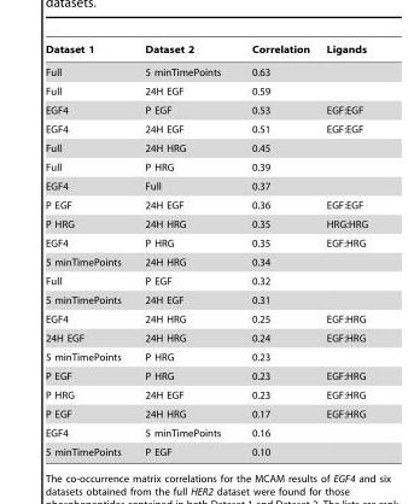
<table><thead><tr><td>Dataset 1</td><td>Dataset 2</td><td>Correlation</td><td>Ligands</td></tr></thead><tbody><tr><td>Full</td><td>5 minTimePoints</td><td>0.63</td><td></td></tr><tr><td>Full</td><td>24H EGF</td><td>0.59</td><td></td></tr><tr><td>EGF4</td><td>P EGF</td><td>0.53</td><td>EGF:EGF</td></tr><tr><td>EGF4</td><td>24H EGF</td><td>0.51</td><td>EGF:EGF</td></tr><tr><td>Full</td><td>24H HRG</td><td>0.45</td><td></td></tr><tr><td>Full</td><td>P HRG</td><td>0.39</td><td></td></tr><tr><td>EGF4</td><td>Full</td><td>0.37</td><td></td></tr><tr><td>P EGF</td><td>24H EGF</td><td>0.36</td><td>EGF:EGF</td></tr><tr><td>P HRG</td><td>24H HRG</td><td>0.35</td><td>HRG:HRG</td></tr><tr><td>EGF4</td><td>P HRG</td><td>0.35</td><td>EGF:HRG</td></tr><tr><td>5 minTimePoints</td><td>24H HRG</td><td>0.34</td><td></td></tr><tr><td>Full</td><td>P EGF</td><td>0.32</td><td></td></tr><tr><td>5 minTimePoints</td><td>24H EGF</td><td>0.31</td><td></td></tr><tr><td>EGF4</td><td>24H HRG</td><td>0.25</td><td>EGF:HRG</td></tr><tr><td>24H EGF</td><td>24H HRG</td><td>0.24</td><td>EGF:HRG</td></tr><tr><td>5 minTimePoints</td><td>P HRG</td><td>0.23</td><td></td></tr><tr><td>P EGF</td><td>P HRG</td><td>0.23</td><td>EGF:HRG</td></tr><tr><td>P HRG</td><td>24H EGF</td><td>0.23</td><td>EGF:HRG</td></tr><tr><td>P EGF</td><td>24H HRG</td><td>0.17</td><td>EGF:HRG</td></tr><tr><td>EGF4</td><td>5 minTimePoints</td><td>0.16</td><td></td></tr><tr><td>5 minTimePoints</td><td>P EGF</td><td>0.10</td><td></td></tr></tbody></table>